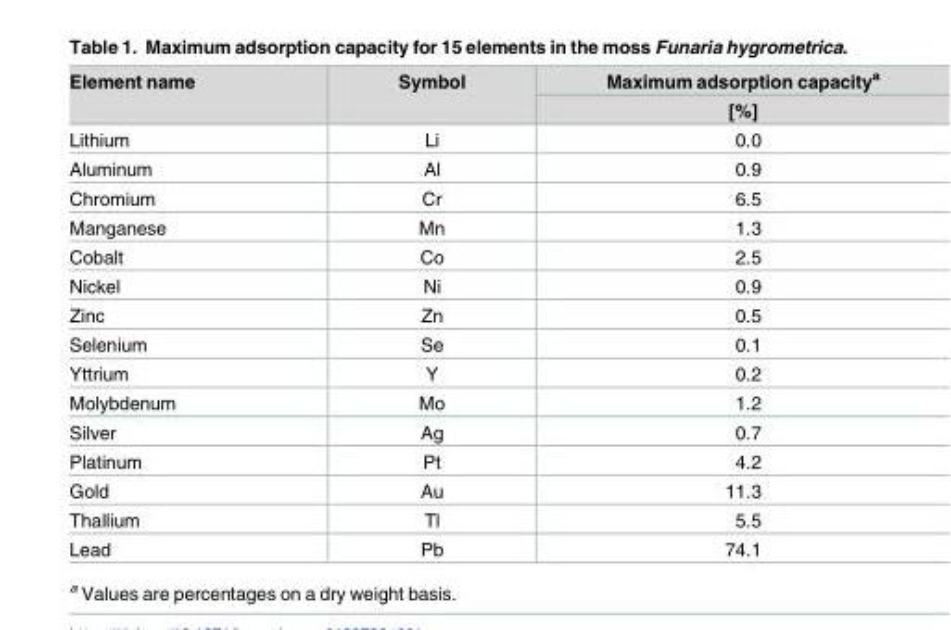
<table><thead><tr><td rowspan="2">Element name</td><td rowspan="2">Symbol</td><td rowspan="2">Maximum adsorption capacity<sup>a</sup> [%]</td></tr><tr></tr></thead><tbody><tr><td>Lithium</td><td>Li</td><td>0.0</td></tr><tr><td>Aluminum</td><td>Al</td><td>0.9</td></tr><tr><td>Chromium</td><td>Cr</td><td>6.5</td></tr><tr><td>Manganese</td><td>Mn</td><td>1.3</td></tr><tr><td>Cobalt</td><td>Co</td><td>2.5</td></tr><tr><td>Nickel</td><td>Ni</td><td>0.9</td></tr><tr><td>Zinc</td><td>Zn</td><td>0.5</td></tr><tr><td>Selenium</td><td>Se</td><td>0.1</td></tr><tr><td>Yttrium</td><td>Y</td><td>0.2</td></tr><tr><td>Molybdenum</td><td>Mo</td><td>1.2</td></tr><tr><td>Silver</td><td>Ag</td><td>0.7</td></tr><tr><td>Platinum</td><td>Pt</td><td>4.2</td></tr><tr><td>Gold</td><td>Au</td><td>11.3</td></tr><tr><td>Thallium</td><td>Tl</td><td>5.5</td></tr><tr><td>Lead</td><td>Pb</td><td>74.1</td></tr></tbody></table>